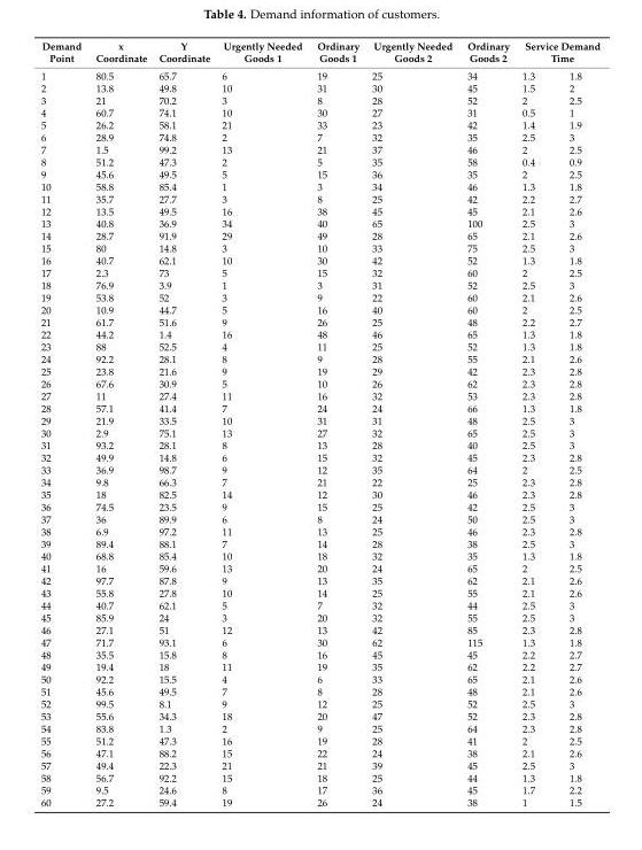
<table><thead><tr><td rowspan="2">Demand Point 1</td><td rowspan="2">x Coordinate 80.5</td><td rowspan="2">Y Coordinate 65.7</td><td rowspan="2">Urgently Needed Goods 1 6</td><td rowspan="2">Ordinary Goods 1 19</td><td rowspan="2">Urgently Needed Goods 2 25</td><td rowspan="2">Ordinary Goods 2 34</td><td colspan="2">Service Demand Time</td></tr><tr><td>1.3</td><td>1.8</td></tr></thead><tbody><tr><td>2</td><td>13.8</td><td>49.8</td><td>10</td><td>31</td><td>30</td><td>45</td><td>1.5</td><td>2</td></tr><tr><td>3</td><td>21</td><td>70.2</td><td>3</td><td>8</td><td>28</td><td>52</td><td>2</td><td>2.5</td></tr><tr><td>4</td><td>60.7</td><td>74.1</td><td>10</td><td>30</td><td>27</td><td>31</td><td>0.5</td><td>1</td></tr><tr><td>5</td><td>26.2</td><td>58.1</td><td>21</td><td>33</td><td>23</td><td>42</td><td>1.4</td><td>1.9</td></tr><tr><td>6</td><td>28.9</td><td>74.8</td><td>2</td><td>7</td><td>32</td><td>35</td><td>2.5</td><td>3</td></tr><tr><td>7</td><td>1.5</td><td>99.2</td><td>13</td><td>21</td><td>37</td><td>46</td><td>2</td><td>2.5</td></tr><tr><td>8</td><td>51.2</td><td>47.3</td><td>2</td><td>5</td><td>35</td><td>58</td><td>0.4</td><td>0.9</td></tr><tr><td>9</td><td>45.6</td><td>49.5</td><td>5</td><td>15</td><td>36</td><td>35</td><td>2</td><td>2.5</td></tr><tr><td>10</td><td>58.8</td><td>85.4</td><td>1</td><td>3</td><td>34</td><td>46</td><td>1.3</td><td>1.8</td></tr><tr><td>11</td><td>35.7</td><td>27.7</td><td>3</td><td>8</td><td>25</td><td>42</td><td>2.2</td><td>2.7</td></tr><tr><td>12</td><td>13.5</td><td>49.5</td><td>16</td><td>38</td><td>45</td><td>45</td><td>2.1</td><td>2.6</td></tr><tr><td>13</td><td>40.8</td><td>36.9</td><td>34</td><td>40</td><td>65</td><td>100</td><td>2.5</td><td>3</td></tr><tr><td>14</td><td>28.7</td><td>91.9</td><td>29</td><td>49</td><td>28</td><td>65</td><td>2.1</td><td>2.6</td></tr><tr><td>15</td><td>80</td><td>14.8</td><td>3</td><td>10</td><td>33</td><td>75</td><td>2.5</td><td>3</td></tr><tr><td>16</td><td>40.7</td><td>62.1</td><td>10</td><td>30</td><td>42</td><td>52</td><td>1.3</td><td>1.8</td></tr><tr><td>17</td><td>2.3</td><td>73</td><td>5</td><td>15</td><td>32</td><td>60</td><td>2</td><td>2.5</td></tr><tr><td>18</td><td>76.9</td><td>3.9</td><td>1</td><td>3</td><td>31</td><td>52</td><td>2.5</td><td>3</td></tr><tr><td>19</td><td>53.8</td><td>52</td><td>3</td><td>9</td><td>22</td><td>60</td><td>2.1</td><td>2.6</td></tr><tr><td>20</td><td>10.9</td><td>44.7</td><td>5</td><td>16</td><td>40</td><td>60</td><td>2</td><td>2.5</td></tr><tr><td>21</td><td>61.7</td><td>51.6</td><td>9</td><td>26</td><td>25</td><td>48</td><td>2.2</td><td>2.7</td></tr><tr><td>22</td><td>44.2</td><td>1.4</td><td>16</td><td>48</td><td>46</td><td>65</td><td>1.3</td><td>1.8</td></tr><tr><td>23</td><td>88</td><td>52.5</td><td>4</td><td>11</td><td>25</td><td>52</td><td>1.3</td><td>1.8</td></tr><tr><td>24</td><td>92.2</td><td>28.1</td><td>8</td><td>9</td><td>28</td><td>55</td><td>2.1</td><td>2.6</td></tr><tr><td>25</td><td>23.8</td><td>21.6</td><td>9</td><td>19</td><td>29</td><td>42</td><td>2.3</td><td>2.8</td></tr><tr><td>26</td><td>67.6</td><td>30.9</td><td>5</td><td>10</td><td>26</td><td>62</td><td>2.3</td><td>2.8</td></tr><tr><td>27</td><td>11</td><td>27.4</td><td>11</td><td>16</td><td>32</td><td>53</td><td>2.3</td><td>2.8</td></tr><tr><td>28</td><td>57.1</td><td>41.4</td><td>7</td><td>24</td><td>24</td><td>66</td><td>1.3</td><td>1.8</td></tr><tr><td>29</td><td>21.9</td><td>33.5</td><td>10</td><td>31</td><td>31</td><td>48</td><td>2.5</td><td>3</td></tr><tr><td>30</td><td>2.9</td><td>75.1</td><td>13</td><td>27</td><td>32</td><td>65</td><td>2.5</td><td>3</td></tr><tr><td>31</td><td>93.2</td><td>28.1</td><td>8</td><td>13</td><td>28</td><td>40</td><td>2.5</td><td>3</td></tr><tr><td>32</td><td>49.9</td><td>14.8</td><td>6</td><td>15</td><td>32</td><td>45</td><td>2.3</td><td>2.8</td></tr><tr><td>33</td><td>36.9</td><td>98.7</td><td>9</td><td>12</td><td>35</td><td>64</td><td>2</td><td>2.5</td></tr><tr><td>34</td><td>9.8</td><td>66.3</td><td>7</td><td>21</td><td>22</td><td>25</td><td>2.3</td><td>2.8</td></tr><tr><td>35</td><td>18</td><td>82.5</td><td>14</td><td>12</td><td>30</td><td>46</td><td>2.3</td><td>2.8</td></tr><tr><td>36</td><td>74.5</td><td>23.5</td><td>9</td><td>15</td><td>25</td><td>42</td><td>2.5</td><td>3</td></tr><tr><td>37</td><td>36</td><td>89.9</td><td>6</td><td>8</td><td>24</td><td>50</td><td>2.5</td><td>3</td></tr><tr><td>38</td><td>6.9</td><td>97.2</td><td>11</td><td>13</td><td>25</td><td>46</td><td>2.3</td><td>2.8</td></tr><tr><td>39</td><td>89.4</td><td>88.1</td><td>7</td><td>14</td><td>28</td><td>38</td><td>2.5</td><td>3</td></tr><tr><td>40</td><td>68.8</td><td>85.4</td><td>10</td><td>18</td><td>32</td><td>35</td><td>1.3</td><td>1.8</td></tr><tr><td>41</td><td>16</td><td>59.6</td><td>13</td><td>20</td><td>24</td><td>65</td><td>2</td><td>2.5</td></tr><tr><td>42</td><td>97.7</td><td>87.8</td><td>9</td><td>13</td><td>35</td><td>62</td><td>2.1</td><td>2.6</td></tr><tr><td>43</td><td>55.8</td><td>27.8</td><td>10</td><td>14</td><td>25</td><td>55</td><td>2.1</td><td>2.6</td></tr><tr><td>44</td><td>40.7</td><td>62.1</td><td>5</td><td>7</td><td>32</td><td>44</td><td>2.5</td><td>3</td></tr><tr><td>45</td><td>85.9</td><td>24</td><td>3</td><td>20</td><td>32</td><td>55</td><td>2.5</td><td>3</td></tr><tr><td>46</td><td>27.1</td><td>51</td><td>12</td><td>13</td><td>42</td><td>85</td><td>2.3</td><td>2.8</td></tr><tr><td>47</td><td>71.7</td><td>93.1</td><td>6</td><td>30</td><td>62</td><td>115</td><td>1.3</td><td>1.8</td></tr><tr><td>48</td><td>35.5</td><td>15.8</td><td>8</td><td>16</td><td>45</td><td>45</td><td>2.2</td><td>2.7</td></tr><tr><td>49</td><td>19.4</td><td>18</td><td>11</td><td>19</td><td>35</td><td>62</td><td>2.2</td><td>2.7</td></tr><tr><td>50</td><td>92.2</td><td>15.5</td><td>4</td><td>6</td><td>33</td><td>65</td><td>2.1</td><td>2.6</td></tr><tr><td>51</td><td>45.6</td><td>49.5</td><td>7</td><td>8</td><td>28</td><td>48</td><td>2.1</td><td>2.6</td></tr><tr><td>52</td><td>99.5</td><td>8.1</td><td>9</td><td>12</td><td>25</td><td>52</td><td>2.5</td><td>3</td></tr><tr><td>53</td><td>55.6</td><td>34.3</td><td>18</td><td>20</td><td>47</td><td>52</td><td>2.3</td><td>2.8</td></tr><tr><td>54</td><td>83.8</td><td>1.3</td><td>2</td><td>9</td><td>25</td><td>64</td><td>2.3</td><td>2.8</td></tr><tr><td>55</td><td>51.2</td><td>47.3</td><td>16</td><td>19</td><td>28</td><td>41</td><td>2</td><td>2.5</td></tr><tr><td>56</td><td>47.1</td><td>88.2</td><td>15</td><td>22</td><td>24</td><td>38</td><td>2.1</td><td>2.6</td></tr><tr><td>57</td><td>49.4</td><td>22.3</td><td>21</td><td>21</td><td>39</td><td>45</td><td>2.5</td><td>3</td></tr><tr><td>58</td><td>56.7</td><td>92.2</td><td>15</td><td>18</td><td>25</td><td>44</td><td>1.3</td><td>1.8</td></tr><tr><td>59</td><td>9.5</td><td>24.6</td><td>8</td><td>17</td><td>36</td><td>45</td><td>1.7</td><td>2.2</td></tr><tr><td>60</td><td>27.2</td><td>59.4</td><td>19</td><td>26</td><td>24</td><td>38</td><td>1</td><td>1.5</td></tr></tbody></table>